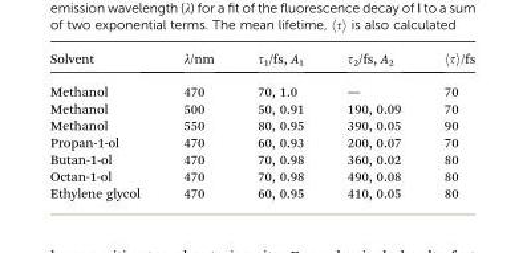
<table><thead><tr><td>Solvent</td><td>λ/nm</td><td>τ<sub>1</sub>/fs, A<sub>1</sub></td><td>τ<sub>2</sub>/fs, A<sub>2</sub></td><td>hsi/fs</td></tr></thead><tbody><tr><td>Methanol</td><td>470</td><td>70, 1.0</td><td>—</td><td>70</td></tr><tr><td>Methanol</td><td>500</td><td>50, 0.91</td><td>190, 0.09</td><td>70</td></tr><tr><td>Methanol</td><td>550</td><td>80, 0.95</td><td>390, 0.05</td><td>90</td></tr><tr><td>Propan-1-ol</td><td>470</td><td>60, 0.93</td><td>200, 0.07</td><td>70</td></tr><tr><td>Butan-1-ol</td><td>470</td><td>70, 0.98</td><td>360, 0.02</td><td>80</td></tr><tr><td>Octan-1-ol</td><td>470</td><td>70, 0.98</td><td>490, 0.08</td><td>80</td></tr><tr><td>Ethylene glycol</td><td>470</td><td>60, 0.95</td><td>410, 0.05</td><td>80</td></tr></tbody></table>